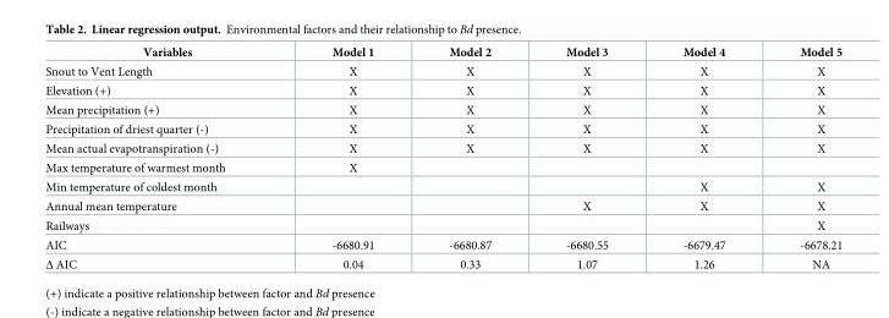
<table><thead><tr><td>Variables</td><td>Model 1</td><td>Model 2</td><td>Model 3</td><td>Model 4</td><td>Model 5</td></tr></thead><tbody><tr><td>Snout to Vent Length</td><td>X</td><td>X</td><td>X</td><td>X</td><td>X</td></tr><tr><td>Elevation (+)</td><td>X</td><td>X</td><td>X</td><td>X</td><td>X</td></tr><tr><td>Mean precipitation (+)</td><td>X</td><td>X</td><td>X</td><td>X</td><td>X</td></tr><tr><td>Precipitation of driest quarter (-)</td><td>X</td><td>X</td><td>X</td><td>X</td><td>X</td></tr><tr><td>Mean actual evapotranspiration (-)</td><td>X</td><td>X</td><td>X</td><td>X</td><td>X</td></tr><tr><td>Max temperature of warmest month</td><td>X</td><td></td><td></td><td></td><td></td></tr><tr><td>Min temperature of coldest month</td><td></td><td></td><td></td><td>X</td><td>X</td></tr><tr><td>Annual mean temperature</td><td></td><td></td><td>X</td><td>X</td><td>X</td></tr><tr><td>Railways</td><td></td><td></td><td></td><td></td><td>X</td></tr><tr><td>AIC</td><td>-6680.91</td><td>-6680.87</td><td>-6680.55</td><td>-6679.47</td><td>-6678.21</td></tr><tr><td>Δ AIC</td><td>0.04</td><td>0.33</td><td>1.07</td><td>1.26</td><td>NA</td></tr></tbody></table>